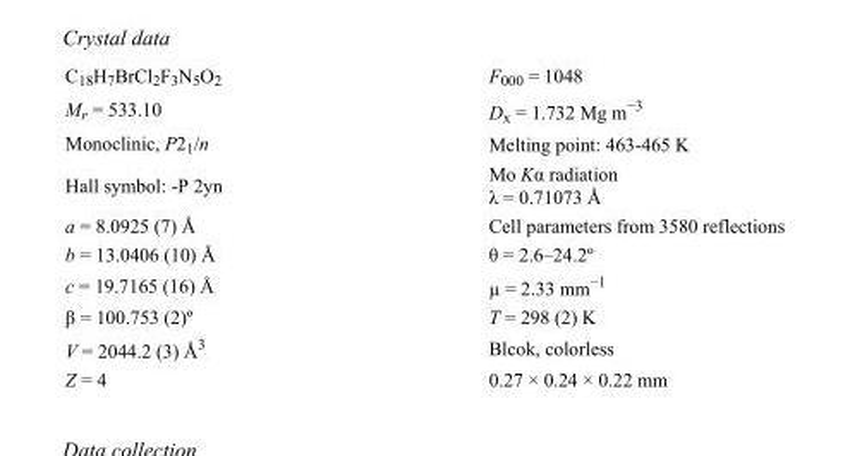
<table><tbody><tr><td>C<sub>18</sub>H<sub>7</sub>BrCl<sub>2</sub>F<sub>3</sub>N<sub>5</sub>O<sub>2</sub></td><td>F<sub>000</sub> = 1048</td></tr><tr><td>M<sub>r</sub> = 533.10</td><td>D<sub>x</sub> = 1.732 Mg m<sup>−3</sup></td></tr><tr><td>Monoclinic, P2<sub>1</sub>/n</td><td>Melting point= 463-465 K</td></tr><tr><td>Hall symbol: -P 2yn</td><td>Mo Kα radiation λ = 0.71073 Å</td></tr><tr><td>a = 8.0925 (7) Å</td><td>Cell parameters from 3580 reflections</td></tr><tr><td>b = 13.0406 (10) Å</td><td>θ = 2.6–24.2º</td></tr><tr><td>c = 19.7165 (16) Å</td><td>µ = 2.33 mm<sup>−1</sup></td></tr><tr><td>β = 100.753 (2)º</td><td>T = 298 (2) K</td></tr><tr><td>V = 2044.2 (3) Å<sup>3</sup></td><td>Blcok, colorless</td></tr><tr><td>Z = 4</td><td>0.27 × 0.24 × 0.22 mm</td></tr></tbody></table>